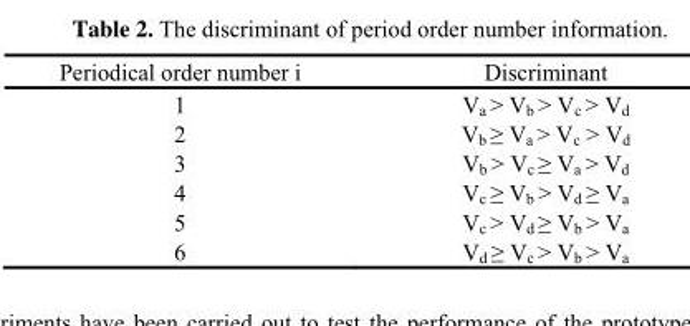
<table><thead><tr><td>Periodical order number i</td><td>Discriminant</td></tr></thead><tbody><tr><td>1</td><td>V<sub>a</sub> &gt; V<sub>b</sub> &gt; V<sub>c</sub> &gt; V<sub>d</sub></td></tr><tr><td>2</td><td>V<sub>b</sub> ≥ V<sub>a</sub> &gt; V<sub>c</sub> &gt; V<sub>d</sub></td></tr><tr><td>3</td><td>V<sub>b</sub> &gt; V<sub>c</sub> ≥ V<sub>a</sub> &gt; V<sub>d</sub></td></tr><tr><td>4</td><td>V<sub>c</sub> ≥ V<sub>b</sub> &gt; V<sub>d</sub> ≥ V<sub>a</sub></td></tr><tr><td>5</td><td>V<sub>c</sub> &gt; V<sub>d</sub> ≥ V<sub>b</sub> &gt; V<sub>a</sub></td></tr><tr><td>6</td><td>V<sub>d</sub> ≥ V<sub>c</sub> &gt; V<sub>b</sub> &gt; V<sub>a</sub></td></tr></tbody></table>